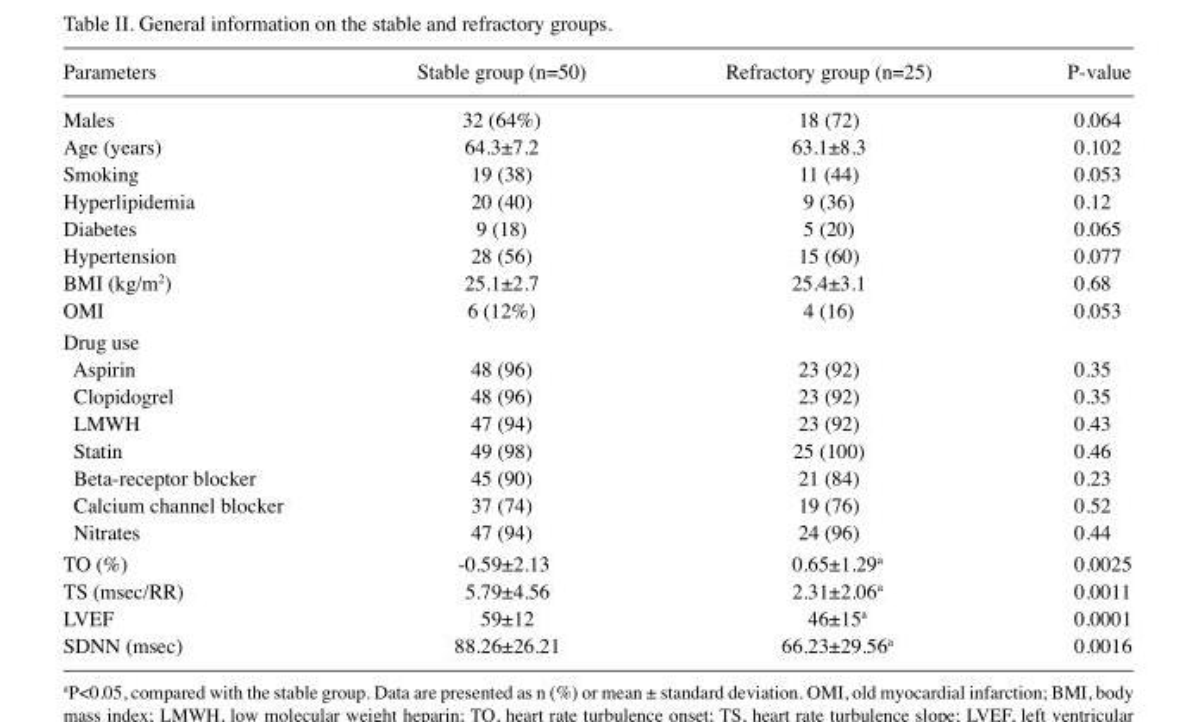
<table><thead><tr><td>Parameters</td><td>Stable group (n=50)</td><td>Refractory group (n=25)</td><td>P-value</td></tr></thead><tbody><tr><td>Males</td><td>32 (64%)</td><td>18 (72)</td><td>0.064</td></tr><tr><td>Age (years)</td><td>64.3±7.2</td><td>63.1±8.3</td><td>0.102</td></tr><tr><td>Smoking</td><td>19 (38)</td><td>11 (44)</td><td>0.053</td></tr><tr><td>Hyperlipidemia</td><td>20 (40)</td><td>9 (36)</td><td>0.12</td></tr><tr><td>Diabetes</td><td>9 (18)</td><td>5 (20)</td><td>0.065</td></tr><tr><td>Hypertension</td><td>28 (56)</td><td>15 (60)</td><td>0.077</td></tr><tr><td>BMI (kg/m<sup>2</sup>)</td><td>25.1±2.7</td><td>25.4±3.1</td><td>0.68</td></tr><tr><td>OMI</td><td>6 (12%)</td><td>4 (16)</td><td>0.053</td></tr><tr><td colspan="4">Drug use</td></tr><tr><td>Aspirin</td><td>48 (96)</td><td>23 (92)</td><td>0.35</td></tr><tr><td>Clopidogrel</td><td>48 (96)</td><td>23 (92)</td><td>0.35</td></tr><tr><td>LMWH</td><td>47 (94)</td><td>23 (92)</td><td>0.43</td></tr><tr><td>Statin</td><td>49 (98)</td><td>25 (100)</td><td>0.46</td></tr><tr><td>Beta-receptor blocker</td><td>45 (90)</td><td>21 (84)</td><td>0.23</td></tr><tr><td>Calcium channel blocker</td><td>37 (74)</td><td>19 (76)</td><td>0.52</td></tr><tr><td>Nitrates</td><td>47 (94)</td><td>24 (96)</td><td>0.44</td></tr><tr><td>TO (%)</td><td>‑0.59±2.13</td><td>0.65±1.29<sup>a</sup></td><td>0.0025</td></tr><tr><td>TS (msec/RR)</td><td>5.79±4.56</td><td>2.31±2.06<sup>a</sup></td><td>0.0011</td></tr><tr><td>LVEF</td><td>59±12</td><td>46±15<sup>a</sup></td><td>0.0001</td></tr><tr><td>SDNN (msec)</td><td>88.26±26.21</td><td>66.23±29.56<sup>a</sup></td><td>0.0016</td></tr></tbody></table>